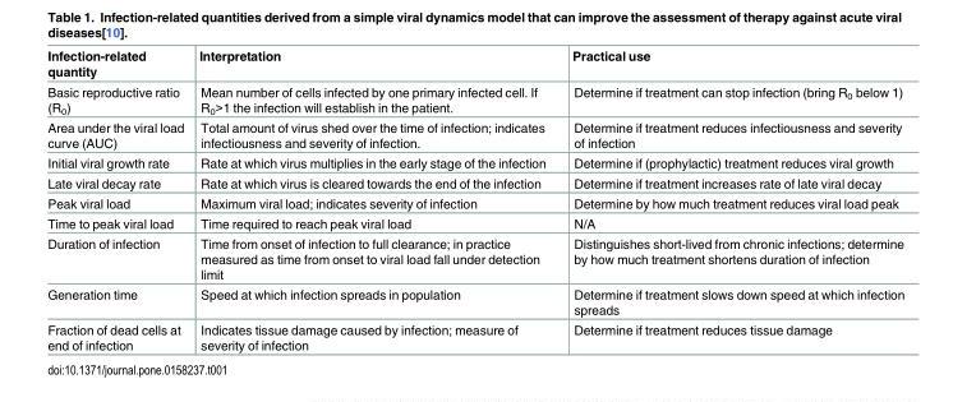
<table><thead><tr><td>Infection-related quantity</td><td>Interpretation</td><td>Practical use</td></tr></thead><tbody><tr><td>Basic reproductive ratio (R<sub>0</sub>)</td><td>Mean number of cells infected by one primary infected cell. If R<sub>0</sub>&gt;1 the infection will establish in the patient.</td><td>Determine if treatment can stop infection (bring R<sub>0</sub> below 1)</td></tr><tr><td>Area under the viral load curve (AUC)</td><td>Total amount of virus shed over the time of infection; indicates infectiousness and severity of infection.</td><td>Determine if treatment reduces infectiousness and severity of infection</td></tr><tr><td>Initial viral growth rate</td><td>Rate at which virus multiplies in the early stage of the infection</td><td>Determine if (prophylactic) treatment reduces viral growth</td></tr><tr><td>Late viral decay rate</td><td>Rate at which virus is cleared towards the end of the infection</td><td>Determine if treatment increases rate of late viral decay</td></tr><tr><td>Peak viral load</td><td>Maximum viral load; indicates severity of infection</td><td>Determine by how much treatment reduces viral load peak</td></tr><tr><td>Time to peak viral load</td><td>Time required to reach peak viral load</td><td>N/A</td></tr><tr><td>Duration of infection</td><td>Time from onset of infection to full clearance; in practice measured as time from onset to viral load fall under detection limit</td><td>Distinguishes short-lived from chronic infections; determine by how much treatment shortens duration of infection</td></tr><tr><td>Generation time</td><td>Speed at which infection spreads in population</td><td>Determine if treatment slows down speed at which infection spreads</td></tr><tr><td>Fraction of dead cells at end of infection</td><td>Indicates tissue damage caused by infection; measure of severity of infection</td><td>Determine if treatment reduces tissue damage</td></tr></tbody></table>